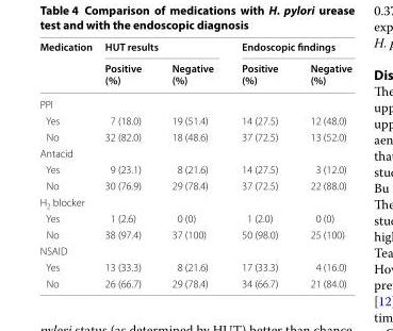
<table><thead><tr><td rowspan="2">Medication</td><td colspan="2">HUT results</td><td colspan="2">Endoscopic findings</td></tr><tr><td>Positive (%)</td><td>Negative (%)</td><td>Positive (%)</td><td>Negative (%)</td></tr></thead><tbody><tr><td colspan="5">PPI</td></tr><tr><td>Yes</td><td>7 (18.0)</td><td>19 (51.4)</td><td>14 (27.5)</td><td>12 (48.0)</td></tr><tr><td>No</td><td>32 (82.0)</td><td>18 (48.6)</td><td>37 (72.5)</td><td>13 (52.0)</td></tr><tr><td colspan="5">Antacid</td></tr><tr><td>Yes</td><td>9 (23.1)</td><td>8 (21.6)</td><td>14 (27.5)</td><td>3 (12.0)</td></tr><tr><td>No</td><td>30 (76.9)</td><td>29 (78.4)</td><td>37 (72.5)</td><td>22 (88.0)</td></tr><tr><td colspan="5">H<sub>2</sub> blocker</td></tr><tr><td>Yes</td><td>1 (2.6)</td><td>0 (0)</td><td>1 (2.0)</td><td>0 (0)</td></tr><tr><td>No</td><td>38 (97.4)</td><td>37 (100)</td><td>50 (98.0)</td><td>25 (100)</td></tr><tr><td colspan="5">NSAID</td></tr><tr><td>Yes</td><td>13 (33.3)</td><td>8 (21.6)</td><td>17 (33.3)</td><td>4 (16.0)</td></tr><tr><td>No</td><td>26 (66.7)</td><td>29 (78.4)</td><td>34 (66.7)</td><td>21 (84.0)</td></tr></tbody></table>